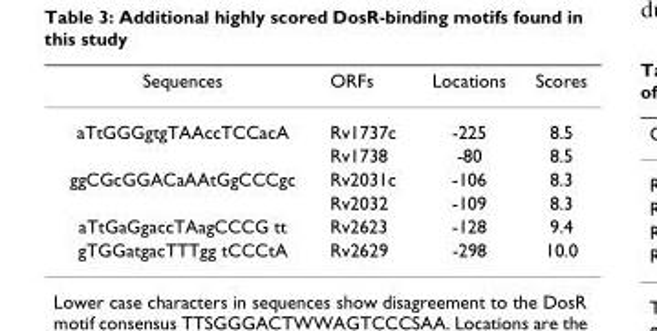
<table><thead><tr><td>Sequences</td><td>ORFs</td><td>Locations</td><td>Scores</td></tr></thead><tbody><tr><td rowspan="2">aTtGGGgtgTAAccTCCacA</td><td>Rv1737c</td><td>-225</td><td>8.5</td></tr><tr><td>Rv1738</td><td>-80</td><td>8.5</td></tr><tr><td rowspan="2">ggCGcGGACaAAtGgCCCgc</td><td>Rv2031c</td><td>-106</td><td>8.3</td></tr><tr><td>Rv2032</td><td>-109</td><td>8.3</td></tr><tr><td>aTtGaGgaccTAagCCCG tt</td><td>Rv2623</td><td>-128</td><td>9.4</td></tr><tr><td>gTGGatgacTTTgg tCCCtA</td><td>Rv2629</td><td>-298</td><td>10.0</td></tr></tbody></table>